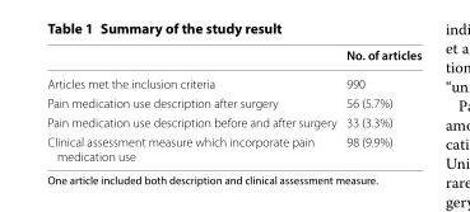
<table><thead><tr><td></td><td>No. of articles</td></tr></thead><tbody><tr><td>Articles met the inclusion criteria</td><td>990</td></tr><tr><td>Pain medication use description after surgery</td><td>56 (5.7%)</td></tr><tr><td>Pain medication use description before and after surgery</td><td>33 (3.3%)</td></tr><tr><td>Clinical assessment measure which incorporate pain medication use</td><td>98 (9.9%)</td></tr></tbody></table>